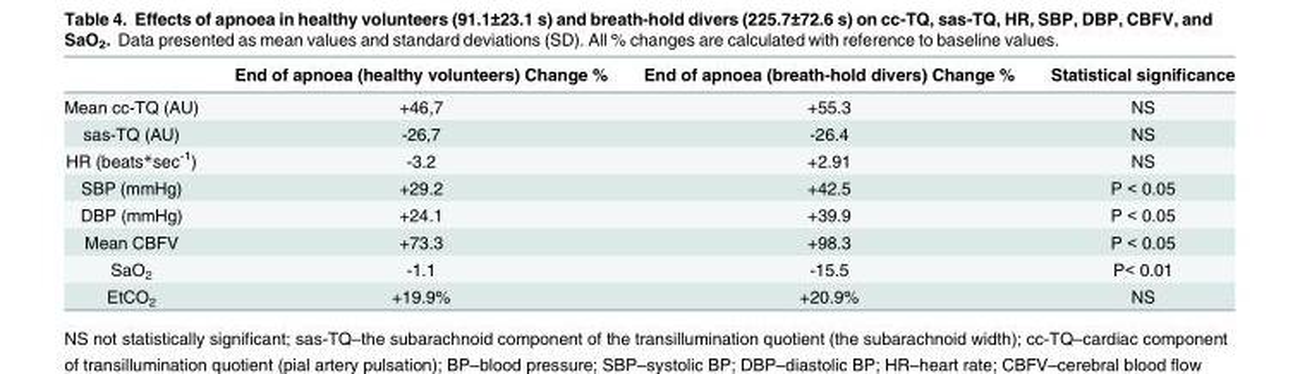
<table><thead><tr><td></td><td>End of apnoea (healthy volunteers) Change %</td><td>End of apnoea (breath-hold divers) Change %</td><td>Statistical significance</td></tr></thead><tbody><tr><td>Mean cc-TQ (AU)</td><td>+46,7</td><td>+55.3</td><td>NS</td></tr><tr><td>sas-TQ (AU)</td><td>-26,7</td><td>-26.4</td><td>NS</td></tr><tr><td>HR (beats*sec<sup>-1</sup>)</td><td>-3.2</td><td>+2.91</td><td>NS</td></tr><tr><td>SBP (mmHg)</td><td>+29.2</td><td>+42.5</td><td>P &lt; 0.05</td></tr><tr><td>DBP (mmHg)</td><td>+24.1</td><td>+39.9</td><td>P &lt; 0.05</td></tr><tr><td>Mean CBFV</td><td>+73.3</td><td>+98.3</td><td>P &lt; 0.05</td></tr><tr><td>SaO<sub>2</sub></td><td>-1.1</td><td>-15.5</td><td>P&lt; 0.01</td></tr><tr><td>EtCO<sub>2</sub></td><td>+19.9%</td><td>+20.9%</td><td>NS</td></tr></tbody></table>